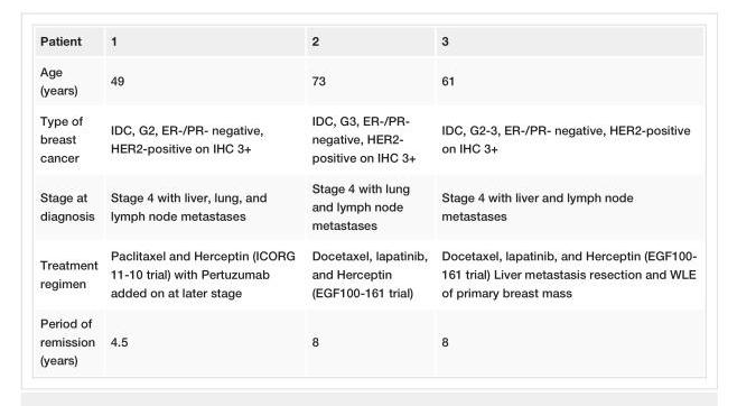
<table><tbody><tr><td>Patient</td><td>1</td><td>2</td><td>3</td></tr><tr><td>Age (years)</td><td>49</td><td>73</td><td>61</td></tr><tr><td>Type of breast cancer</td><td>IDC, G2, ER-/PR- negative, HER2-positive on IHC 3+</td><td>IDC, G3, ER-/PR- negative, HER2- positive on IHC 3+</td><td>IDC, G2-3, ER-/PR- negative, HER2-positive on IHC 3+</td></tr><tr><td>Stage at diagnosis</td><td>Stage 4 with liver, lung, and lymph node metastases</td><td>Stage 4 with lung and lymph node metastases</td><td>Stage 4 with liver and lymph node metastases</td></tr><tr><td>Treatment regimen</td><td>Paclitaxel and Herceptin (ICORG 11-10 trial) with Pertuzumab added on at later stage</td><td>Docetaxel, lapatinib, and Herceptin (EGF100-161 trial)</td><td>Docetaxel, lapatinib, and Herceptin (EGF100- 161 trial) Liver metastasis resection and WLE of primary breast mass</td></tr><tr><td>Period of remission (years)</td><td>4.5</td><td>8</td><td>8</td></tr></tbody></table>